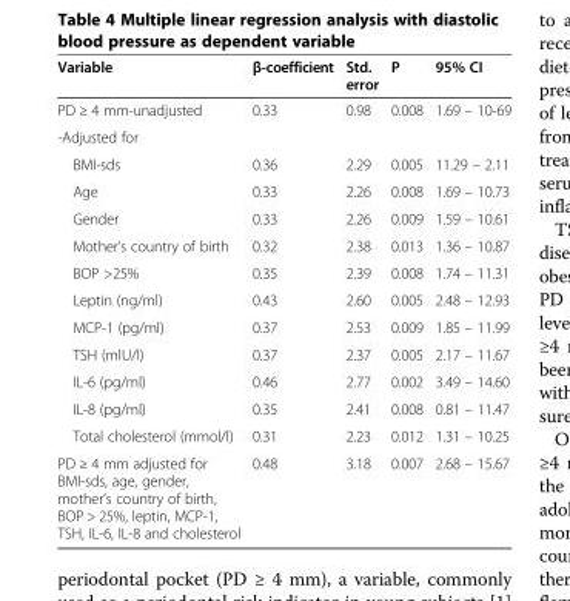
<table><thead><tr><td>Variable</td><td>β-coefficient</td><td>Std. error</td><td>P</td><td>95% CI</td></tr></thead><tbody><tr><td>PD ≥ 4 mm-unadjusted</td><td>0.33</td><td>0.98</td><td>0.008</td><td>1.69 – 10-69</td></tr><tr><td colspan="5">-Adjusted for</td></tr><tr><td>BMI-sds</td><td>0.36</td><td>2.29</td><td>0.005</td><td>11.29 – 2.11</td></tr><tr><td>Age</td><td>0.33</td><td>2.26</td><td>0.008</td><td>1.69 – 10.73</td></tr><tr><td>Gender</td><td>0.33</td><td>2.26</td><td>0.009</td><td>1.59 – 10.61</td></tr><tr><td>Mother’s country of birth</td><td>0.32</td><td>2.38</td><td>0.013</td><td>1.36 – 10.87</td></tr><tr><td>BOP &gt;25%</td><td>0.35</td><td>2.39</td><td>0.008</td><td>1.74 – 11.31</td></tr><tr><td>Leptin (ng/ml)</td><td>0.43</td><td>2.60</td><td>0.005</td><td>2.48 – 12.93</td></tr><tr><td>MCP-1 (pg/ml)</td><td>0.37</td><td>2.53</td><td>0.009</td><td>1.85 – 11.99</td></tr><tr><td>TSH (mlU/l)</td><td>0.37</td><td>2.37</td><td>0.005</td><td>2.17 – 11.67</td></tr><tr><td>IL-6 (pg/ml)</td><td>0.46</td><td>2.77</td><td>0.002</td><td>3.49 – 14.60</td></tr><tr><td>IL-8 (pg/ml)</td><td>0.35</td><td>2.41</td><td>0.008</td><td>0.81 – 11.47</td></tr><tr><td>Total cholesterol (mmol/l)</td><td>0.31</td><td>2.23</td><td>0.012</td><td>1.31 – 10.25</td></tr><tr><td>PD ≥ 4 mm adjusted for BMI-sds, age, gender, mother’s country of birth, BOP &gt; 25%, leptin, MCP-1, TSH, IL-6, IL-8 and cholesterol</td><td>0.48</td><td>3.18</td><td>0.007</td><td>2.68 – 15.67</td></tr></tbody></table>